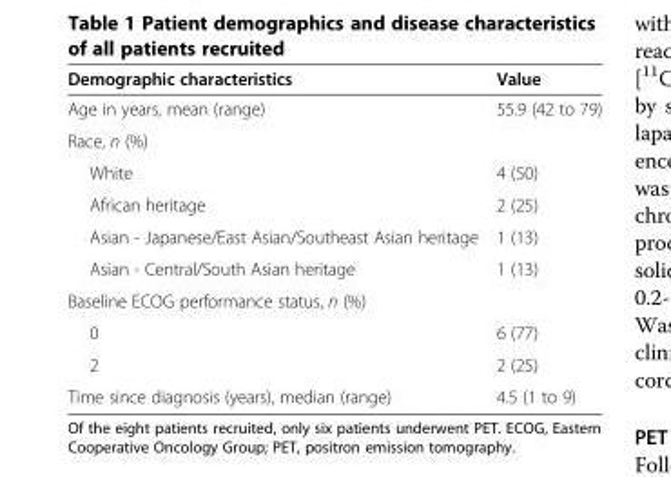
<table><thead><tr><td>Demographic characteristics</td><td>Value</td></tr></thead><tbody><tr><td>Age in years, mean (range)</td><td>55.9 (42 to 79)</td></tr><tr><td colspan="2">Race, n (%)</td></tr><tr><td>White</td><td>4 (50)</td></tr><tr><td>African heritage</td><td>2 (25)</td></tr><tr><td>Asian - Japanese/East Asian/Southeast Asian heritage</td><td>1 (13)</td></tr><tr><td>Asian - Central/South Asian heritage</td><td>1 (13)</td></tr><tr><td colspan="2">Baseline ECOG performance status, n (%)</td></tr><tr><td>0</td><td>6 (77)</td></tr><tr><td>2</td><td>2 (25)</td></tr><tr><td>Time since diagnosis (years), median (range)</td><td>4.5 (1 to 9)</td></tr></tbody></table>